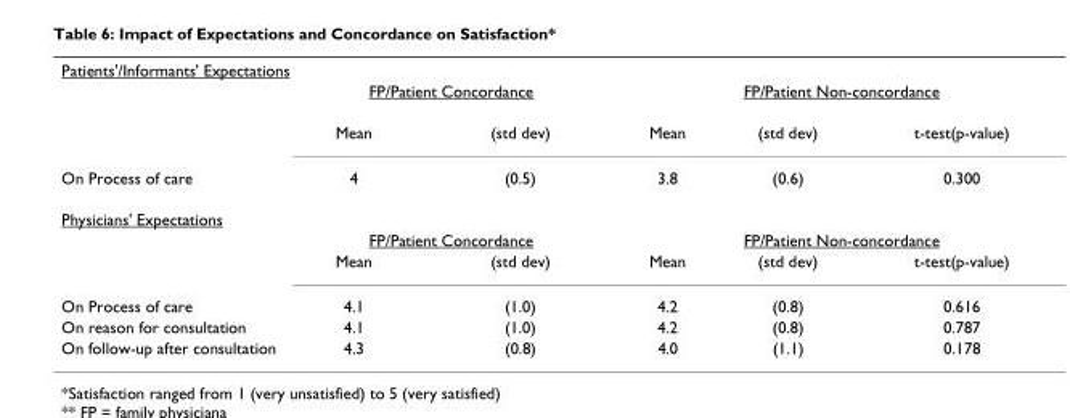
<table><tbody><tr><td colspan="6">Patients&#x27;/Informants&#x27; Expectations</td></tr><tr><td></td><td colspan="2">FP/Patient Concordance</td><td colspan="3">FP/Patient Non-concordance</td></tr><tr><td></td><td>Mean</td><td>(std dev)</td><td>Mean</td><td>(std dev)</td><td>t-test(p-value)</td></tr><tr><td>On Process of care</td><td>4</td><td>(0.5)</td><td>3.8</td><td>(0.6)</td><td>0.300</td></tr><tr><td colspan="6">Physicians&#x27; Expectations</td></tr><tr><td></td><td colspan="2">FP/Patient Concordance</td><td colspan="3">FP/Patient Non-concordance</td></tr><tr><td></td><td>Mean</td><td>(std dev)</td><td>Mean</td><td>(std dev)</td><td>t-test(p-value)</td></tr><tr><td>On Process of care</td><td>4.1</td><td>(1.0)</td><td>4.2</td><td>(0.8)</td><td>0.616</td></tr><tr><td>On reason for consultation</td><td>4.1</td><td>(1.0)</td><td>4.2</td><td>(0.8)</td><td>0.787</td></tr><tr><td>On follow-up after consultation</td><td>4.3</td><td>(0.8)</td><td>4.0</td><td>(1.1)</td><td>0.178</td></tr></tbody></table>